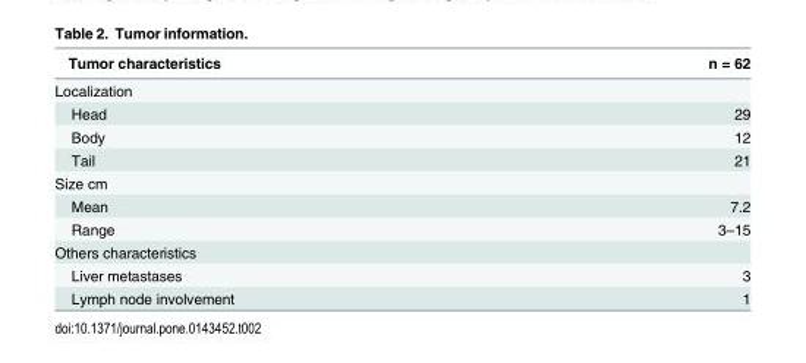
<table><thead><tr><td>Tumor characteristics</td><td>n = 62</td></tr></thead><tbody><tr><td colspan="2">Localization</td></tr><tr><td>Head</td><td>29</td></tr><tr><td>Body</td><td>12</td></tr><tr><td>Tail</td><td>21</td></tr><tr><td colspan="2">Size cm</td></tr><tr><td>Mean</td><td>7.2</td></tr><tr><td>Range</td><td>3–15</td></tr><tr><td colspan="2">Others characteristics</td></tr><tr><td>Liver metastases</td><td>3</td></tr><tr><td>Lymph node involvement</td><td>1</td></tr></tbody></table>